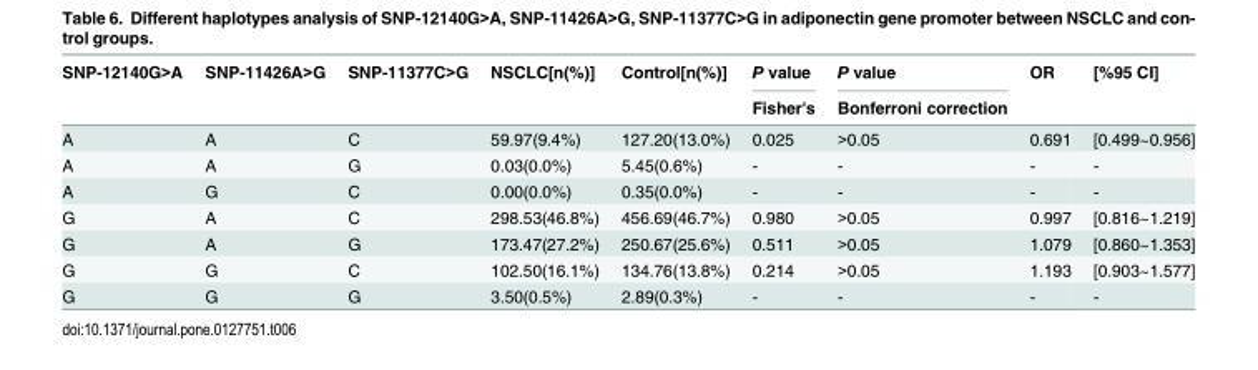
<table><thead><tr><td rowspan="2">SNP-12140G&gt;A</td><td rowspan="2">SNP-11426A&gt;G</td><td rowspan="2">SNP-11377C&gt;G</td><td rowspan="2">NSCLC[n(%)]</td><td rowspan="2">Control[n(%)]</td><td rowspan="2">P value Fisher&#x27;s</td><td rowspan="2">P value Bonferroni correction</td><td rowspan="2">OR</td><td rowspan="2">[%95 CI]</td></tr><tr></tr></thead><tbody><tr><td>A</td><td>A</td><td>C</td><td>59.97(9.4%)</td><td>127.20(13.0%)</td><td>0.025</td><td>&gt;0.05</td><td>0.691</td><td>[0.499~0.956]</td></tr><tr><td>A</td><td>A</td><td>G</td><td>0.03(0.0%)</td><td>5.45(0.6%)</td><td>-</td><td>-</td><td>-</td><td>-</td></tr><tr><td>A</td><td>G</td><td>C</td><td>0.00(0.0%)</td><td>0.35(0.0%)</td><td>-</td><td>-</td><td>-</td><td>-</td></tr><tr><td>G</td><td>A</td><td>C</td><td>298.53(46.8%)</td><td>456.69(46.7%)</td><td>0.980</td><td>&gt;0.05</td><td>0.997</td><td>[0.816~1.219]</td></tr><tr><td>G</td><td>A</td><td>G</td><td>173.47(27.2%)</td><td>250.67(25.6%)</td><td>0.511</td><td>&gt;0.05</td><td>1.079</td><td>[0.860~1.353]</td></tr><tr><td>G</td><td>G</td><td>C</td><td>102.50(16.1%)</td><td>134.76(13.8%)</td><td>0.214</td><td>&gt;0.05</td><td>1.193</td><td>[0.903~1.577]</td></tr><tr><td>G</td><td>G</td><td>G</td><td>3.50(0.5%)</td><td>2.89(0.3%)</td><td>-</td><td>-</td><td>-</td><td>-</td></tr></tbody></table>